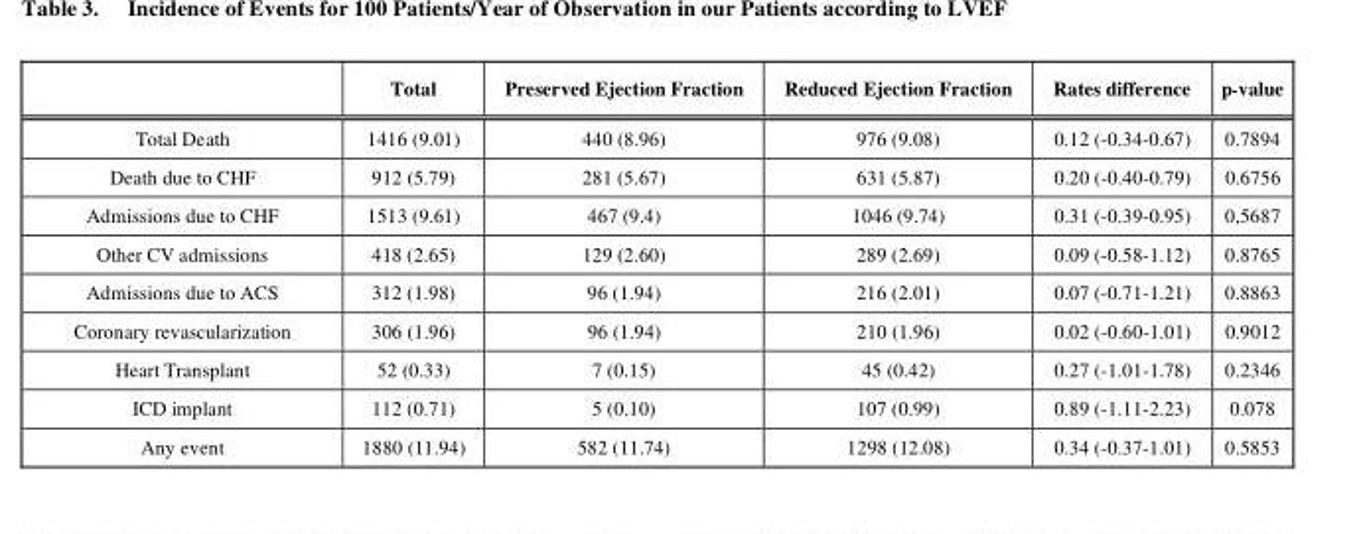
<table><thead><tr><td></td><td>Total</td><td>Preserved Ejection Fraction</td><td>Reduced Ejection Fraction</td><td>Rates difference</td><td>p-value</td></tr></thead><tbody><tr><td>Total Death</td><td>1416 (9.01)</td><td>440 (8.96)</td><td>976 (9.08)</td><td>0.12 (-0.34-0.67)</td><td>0.7894</td></tr><tr><td>Death due to CHF</td><td>912 (5.79)</td><td>281 (5.67)</td><td>631 (5.87)</td><td>0.20 (-0.40-0.79)</td><td>0.6756</td></tr><tr><td>Admissions due to CHF</td><td>1513 (9.61)</td><td>467 (9.4)</td><td>1046 (9.74)</td><td>0.31 (-0.39-0.95)</td><td>0,5687</td></tr><tr><td>Other CV admissions</td><td>418 (2.65)</td><td>129 (2.60)</td><td>289 (2.69)</td><td>0.09 (-0.58-1.12)</td><td>0.8765</td></tr><tr><td>Admissions due to ACS</td><td>312 (1.98)</td><td>96 (1.94)</td><td>216 (2.01)</td><td>0.07 (-0.71-1.21)</td><td>0.8863</td></tr><tr><td>Coronary revascularization</td><td>306 (1.96)</td><td>96 (1.94)</td><td>210 (1.96)</td><td>0.02 (-0.60-1.01)</td><td>0.9012</td></tr><tr><td>Heart Transplant</td><td>52 (0.33)</td><td>7 (0.15)</td><td>45 (0.42)</td><td>0.27 (-1.01-1.78)</td><td>0.2346</td></tr><tr><td>ICD implant</td><td>112 (0.71)</td><td>5 (0.10)</td><td>107 (0.99)</td><td>0.89 (-1.11-2.23)</td><td>0.078</td></tr><tr><td>Any event</td><td>1880 (11.94)</td><td>582 (11.74)</td><td>1298 (12.08)</td><td>0.34 (-0.37-1.01)</td><td>0.5853</td></tr></tbody></table>